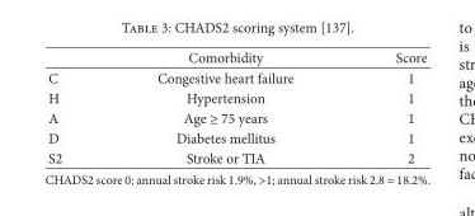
<table><thead><tr><td></td><td>Comorbidity</td><td>Score</td></tr></thead><tbody><tr><td>C</td><td>Congestive heart failure</td><td>1</td></tr><tr><td>H</td><td>Hypertension</td><td>1</td></tr><tr><td>A</td><td>Age ≥ 75 years</td><td>1</td></tr><tr><td>D</td><td>Diabetes mellitus</td><td>1</td></tr><tr><td>S2</td><td>Stroke or TIA</td><td>2</td></tr></tbody></table>